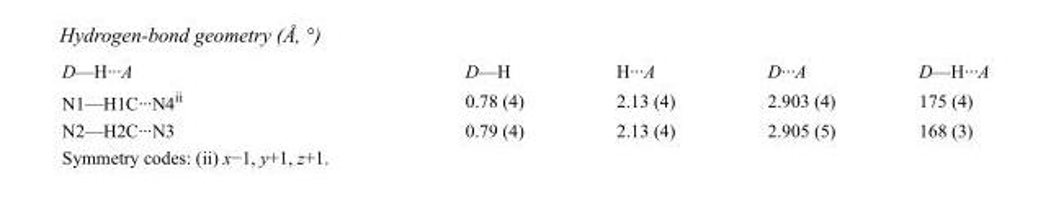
<table><tbody><tr><td>D—H···A</td><td>D—H</td><td>H···A</td><td>D···A</td><td>D—H···A</td></tr><tr><td>N1—H1C···N4<sup>ii</sup></td><td>0.78 (4)</td><td>2.13 (4)</td><td>2.903 (4)</td><td>175 (4)</td></tr><tr><td>N2—H2C···N3</td><td>0.79 (4)</td><td>2.13 (4)</td><td>2.905 (5)</td><td>168 (3)</td></tr></tbody></table>